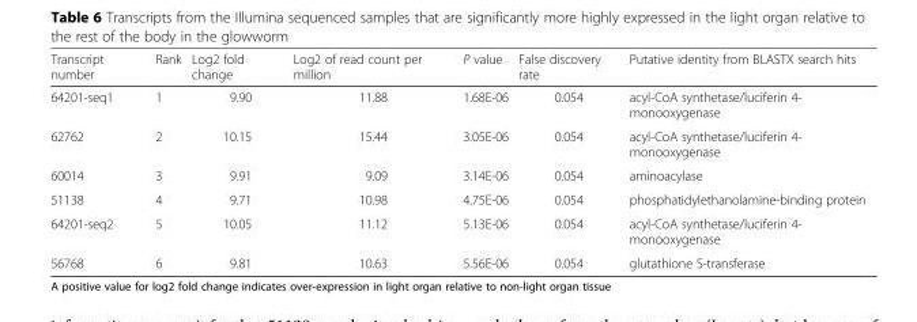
<table><thead><tr><td>Transcript number</td><td>Rank</td><td>Log2 fold change</td><td>Log2 of read count per million</td><td>P value</td><td>False discovery rate</td><td>Putative identity from BLASTX search hits</td></tr></thead><tbody><tr><td>64201-seq1</td><td>1</td><td>9.90</td><td>11.88</td><td>1.68E-06</td><td>0.054</td><td>acyl-CoA synthetase/luciferin 4- monooxygenase</td></tr><tr><td>62762</td><td>2</td><td>10.15</td><td>15.44</td><td>3.05E-06</td><td>0.054</td><td>acyl-CoA synthetase/luciferin 4- monooxygenase</td></tr><tr><td>60014</td><td>3</td><td>9.91</td><td>9.09</td><td>3.14E-06</td><td>0.054</td><td>aminoacylase</td></tr><tr><td>51138</td><td>4</td><td>9.71</td><td>10.98</td><td>4.75E-06</td><td>0.054</td><td>phosphatidylethanolamine-binding protein</td></tr><tr><td>64201-seq2</td><td>5</td><td>10.05</td><td>11.12</td><td>5.13E-06</td><td>0.054</td><td>acyl-CoA synthetase/luciferin 4- monooxygenase</td></tr><tr><td>56768</td><td>6</td><td>9.81</td><td>10.63</td><td>5.56E-06</td><td>0.054</td><td>glutathione S-transferase</td></tr></tbody></table>